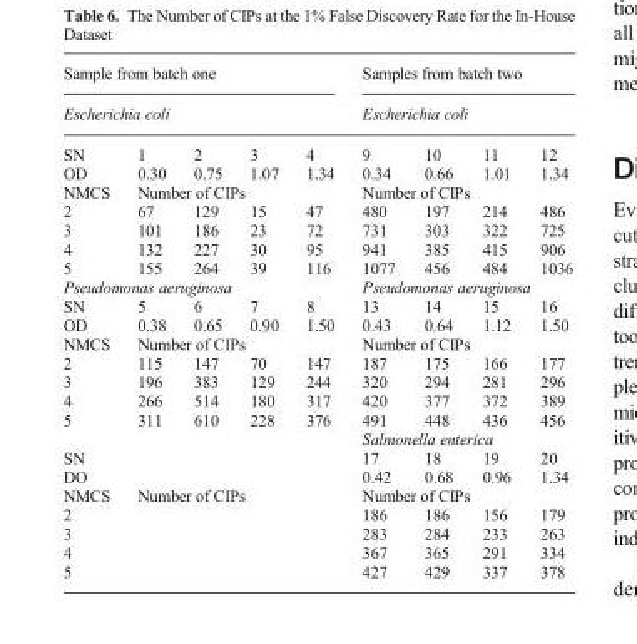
<table><thead><tr><td rowspan="2" colspan="5">Sample from batch one Escherichia coli</td><td rowspan="2" colspan="4">Samples from batch two Escherichia coli</td></tr><tr></tr><tr><td>SN</td><td>1</td><td>2</td><td>3</td><td>4</td><td>9</td><td>10</td><td>11</td><td>12</td></tr></thead><tbody><tr><td>OD</td><td>0.30</td><td>0.75</td><td>1.07</td><td>1.34</td><td>0.34</td><td>0.66</td><td>1.01</td><td>1.34</td></tr><tr><td>NMCS</td><td colspan="4">Number of CIPs</td><td colspan="4">Number of CIPs</td></tr><tr><td>2</td><td>67</td><td>129</td><td>15</td><td>47</td><td>480</td><td>197</td><td>214</td><td>486</td></tr><tr><td>3</td><td>101</td><td>186</td><td>23</td><td>72</td><td>731</td><td>303</td><td>322</td><td>725</td></tr><tr><td>4</td><td>132</td><td>227</td><td>30</td><td>95</td><td>941</td><td>385</td><td>415</td><td>906</td></tr><tr><td>5</td><td>155</td><td>264</td><td>39</td><td>116</td><td>1077</td><td>456</td><td>484</td><td>1036</td></tr><tr><td colspan="5">Pseudomonas aeruginosa</td><td colspan="4">Pseudomonas aeruginosa</td></tr><tr><td>SN</td><td>5</td><td>6</td><td>7</td><td>8</td><td>13</td><td>14</td><td>15</td><td>16</td></tr><tr><td>OD</td><td>0.38</td><td>0.65</td><td>0.90</td><td>1.50</td><td>0.43</td><td>0.64</td><td>1.12</td><td>1.50</td></tr><tr><td>NMCS</td><td colspan="4">Number of CIPs</td><td colspan="4">Number of CIPs</td></tr><tr><td>2</td><td>115</td><td>147</td><td>70</td><td>147</td><td>187</td><td>175</td><td>166</td><td>177</td></tr><tr><td>3</td><td>196</td><td>383</td><td>129</td><td>244</td><td>320</td><td>294</td><td>281</td><td>296</td></tr><tr><td>4</td><td>266</td><td>514</td><td>180</td><td>317</td><td>420</td><td>377</td><td>372</td><td>389</td></tr><tr><td>5</td><td>311</td><td>610</td><td>228</td><td>376</td><td>491</td><td>448</td><td>436</td><td>456</td></tr><tr><td colspan="5"></td><td colspan="4">Salmonella enterica</td></tr><tr><td>SN</td><td></td><td></td><td></td><td></td><td>17</td><td>18</td><td>19</td><td>20</td></tr><tr><td>DO</td><td></td><td></td><td></td><td></td><td>0.42</td><td>0.68</td><td>0.96</td><td>1.34</td></tr><tr><td>NMCS</td><td colspan="4">Number of CIPs</td><td colspan="4">Number of CIPs</td></tr><tr><td>2</td><td colspan="4"></td><td>186</td><td>186</td><td>156</td><td>179</td></tr><tr><td>3</td><td colspan="4"></td><td>283</td><td>284</td><td>233</td><td>263</td></tr><tr><td>4</td><td colspan="4"></td><td>367</td><td>365</td><td>291</td><td>334</td></tr><tr><td>5</td><td colspan="4"></td><td>427</td><td>429</td><td>337</td><td>378</td></tr></tbody></table>